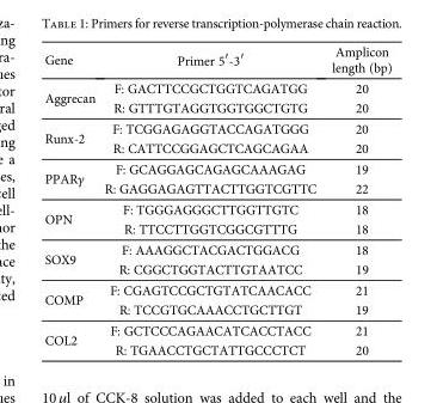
<table><thead><tr><td>Gene</td><td>Primer 5′-3′</td><td>Amplicon length (bp)</td></tr></thead><tbody><tr><td rowspan="2">Aggrecan</td><td>F: GACTTCCGCTGGTCAGATGG</td><td>20</td></tr><tr><td>R: GTTTGTAGGTGGTGGCTGTG</td><td>20</td></tr><tr><td rowspan="2">Runx-2</td><td>F: TCGGAGAGGTACCAGATGGG</td><td>20</td></tr><tr><td>R: CATTCCGGAGCTCAGCAGAA</td><td>20</td></tr><tr><td rowspan="2">PPARγ</td><td>F: GCAGGAGCAGAGCAAAGAG</td><td>19</td></tr><tr><td>R: GAGGAGAGTTACTTGGTCGTTC</td><td>22</td></tr><tr><td rowspan="2">OPN</td><td>F: TGGGAGGGCTTGGTTGTC</td><td>18</td></tr><tr><td>R: TTCCTTGGTCGGCGTTTG</td><td>18</td></tr><tr><td rowspan="2">SOX9</td><td>F: AAAGGCTACGACTGGACG</td><td>18</td></tr><tr><td>R: CGGCTGGTACTTGTAATCC</td><td>19</td></tr><tr><td rowspan="2">COMP</td><td>F: CGAGTCCGCTGTATCAACACC</td><td>21</td></tr><tr><td>R: TCCGTGCAAACCTGCTTGT</td><td>19</td></tr><tr><td rowspan="2">COL2</td><td>F: GCTCCCAGAACATCACCTACC</td><td>21</td></tr><tr><td>R: TGAACCTGCTATTGCCCTCT</td><td>20</td></tr></tbody></table>